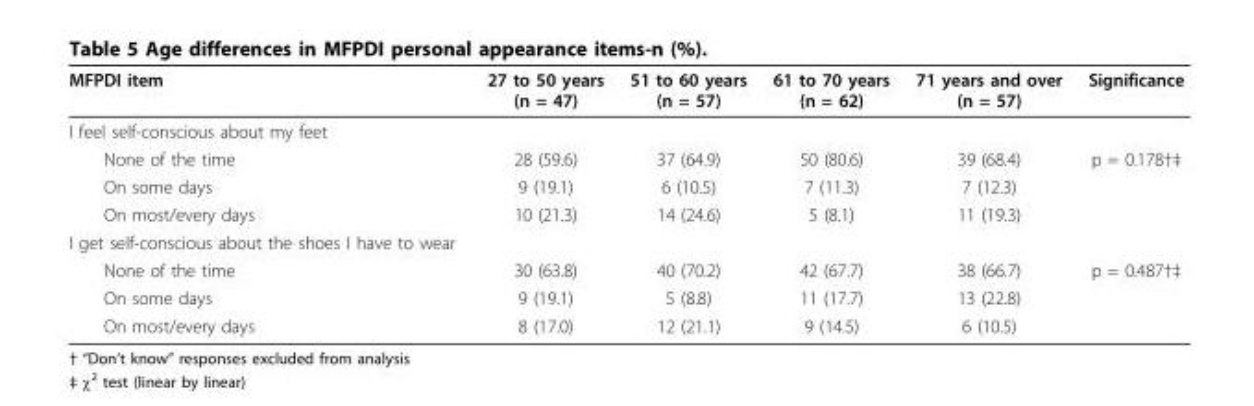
<table><thead><tr><td>MFPDI item</td><td>27 to 50 years (n = 47)</td><td>51 to 60 years (n = 57)</td><td>61 to 70 years (n = 62)</td><td>71 years and over (n = 57)</td><td>Significance</td></tr></thead><tbody><tr><td colspan="6">I feel self-conscious about my feet</td></tr><tr><td>None of the time</td><td>28 (59.6)</td><td>37 (64.9)</td><td>50 (80.6)</td><td>39 (68.4)</td><td>p = 0.178†‡</td></tr><tr><td>On some days</td><td>9 (19.1)</td><td>6 (10.5)</td><td>7 (11.3)</td><td>7 (12.3)</td><td></td></tr><tr><td>On most/every days</td><td>10 (21.3)</td><td>14 (24.6)</td><td>5 (8.1)</td><td>11 (19.3)</td><td></td></tr><tr><td colspan="6">I get self-conscious about the shoes I have to wear</td></tr><tr><td>None of the time</td><td>30 (63.8)</td><td>40 (70.2)</td><td>42 (67.7)</td><td>38 (66.7)</td><td>p = 0.487†‡</td></tr><tr><td>On some days</td><td>9 (19.1)</td><td>5 (8.8)</td><td>11 (17.7)</td><td>13 (22.8)</td><td></td></tr><tr><td>On most/every days</td><td>8 (17.0)</td><td>12 (21.1)</td><td>9 (14.5)</td><td>6 (10.5)</td><td></td></tr></tbody></table>